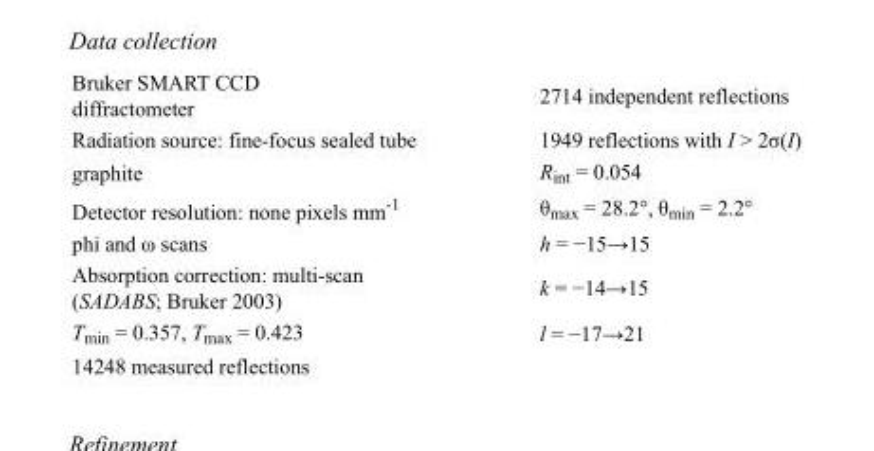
<table><tbody><tr><td>Bruker SMART CCD diffractometer</td><td>2714 independent reflections</td></tr><tr><td>Radiation source: fine-focus sealed tube</td><td>1949 reflections with I &gt; 2σ(I)</td></tr><tr><td>graphite</td><td>R<sub>int</sub> = 0.054</td></tr><tr><td>Detector resolution: none pixels mm<sup>-1</sup></td><td>θ<sub>max</sub> = 28.2°, θ<sub>min</sub> = 2.2°</td></tr><tr><td>phi and ω scans</td><td>h = −15→15</td></tr><tr><td>Absorption correction: multi-scan (SADABS; Bruker 2003)</td><td>k = −14→15</td></tr><tr><td>T<sub>min</sub> = 0.357, T<sub>max</sub> = 0.423</td><td>l = −17→21</td></tr><tr><td>14248 measured reflections</td><td></td></tr></tbody></table>